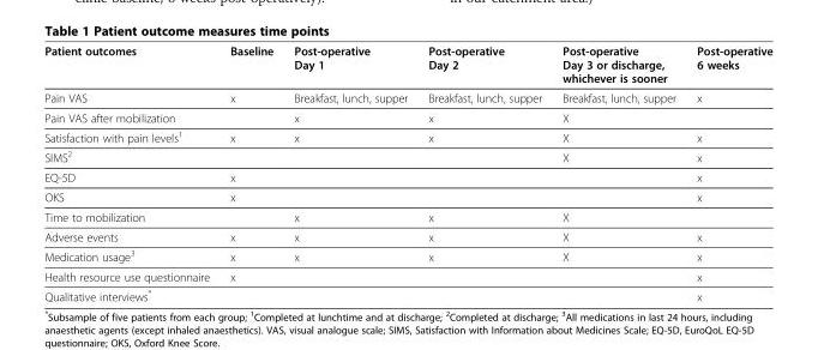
<table><thead><tr><td>Patient outcomes</td><td>Baseline</td><td>Post-operative Day 1</td><td>Post-operative Day 2</td><td>Post-operative Day 3 or discharge, whichever is sooner</td><td>Post-operative 6 weeks</td></tr></thead><tbody><tr><td>Pain VAS</td><td>x</td><td>Breakfast, lunch, supper</td><td>Breakfast, lunch, supper</td><td>Breakfast, lunch, supper</td><td>x</td></tr><tr><td>Pain VAS after mobilization</td><td></td><td>x</td><td>x</td><td>X</td><td></td></tr><tr><td>Satisfaction with pain levels<sup>1</sup></td><td>x</td><td>x</td><td>x</td><td>X</td><td>x</td></tr><tr><td>SIMS<sup>2</sup></td><td></td><td></td><td></td><td>X</td><td>x</td></tr><tr><td>EQ-5D</td><td>x</td><td></td><td></td><td></td><td>x</td></tr><tr><td>OKS</td><td>x</td><td></td><td></td><td></td><td>x</td></tr><tr><td>Time to mobilization</td><td></td><td>x</td><td>x</td><td>X</td><td></td></tr><tr><td>Adverse events</td><td>x</td><td>x</td><td>x</td><td>X</td><td>x</td></tr><tr><td>Medication usage<sup>3</sup></td><td>x</td><td>x</td><td>x</td><td>X</td><td>x</td></tr><tr><td>Health resource use questionnaire</td><td>x</td><td></td><td></td><td></td><td>x</td></tr><tr><td>Qualitative interviews*</td><td></td><td></td><td></td><td></td><td>x</td></tr></tbody></table>